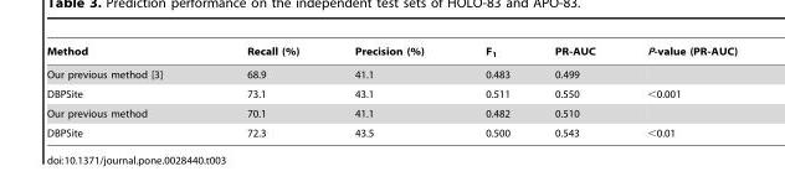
<table><thead><tr><td>Method</td><td>Recall (%)</td><td>Precision (%)</td><td>F<sub>1</sub></td><td>PR-AUC</td><td>P-value (PR-AUC)</td></tr></thead><tbody><tr><td>Our previous method [3]</td><td>68.9</td><td>41.1</td><td>0.483</td><td>0.499</td><td></td></tr><tr><td>DBPSite</td><td>73.1</td><td>43.1</td><td>0.511</td><td>0.550</td><td>&lt;0.001</td></tr><tr><td>Our previous method</td><td>70.1</td><td>41.1</td><td>0.482</td><td>0.510</td><td></td></tr><tr><td>DBPSite</td><td>72.3</td><td>43.5</td><td>0.500</td><td>0.543</td><td>&lt;0.01</td></tr></tbody></table>